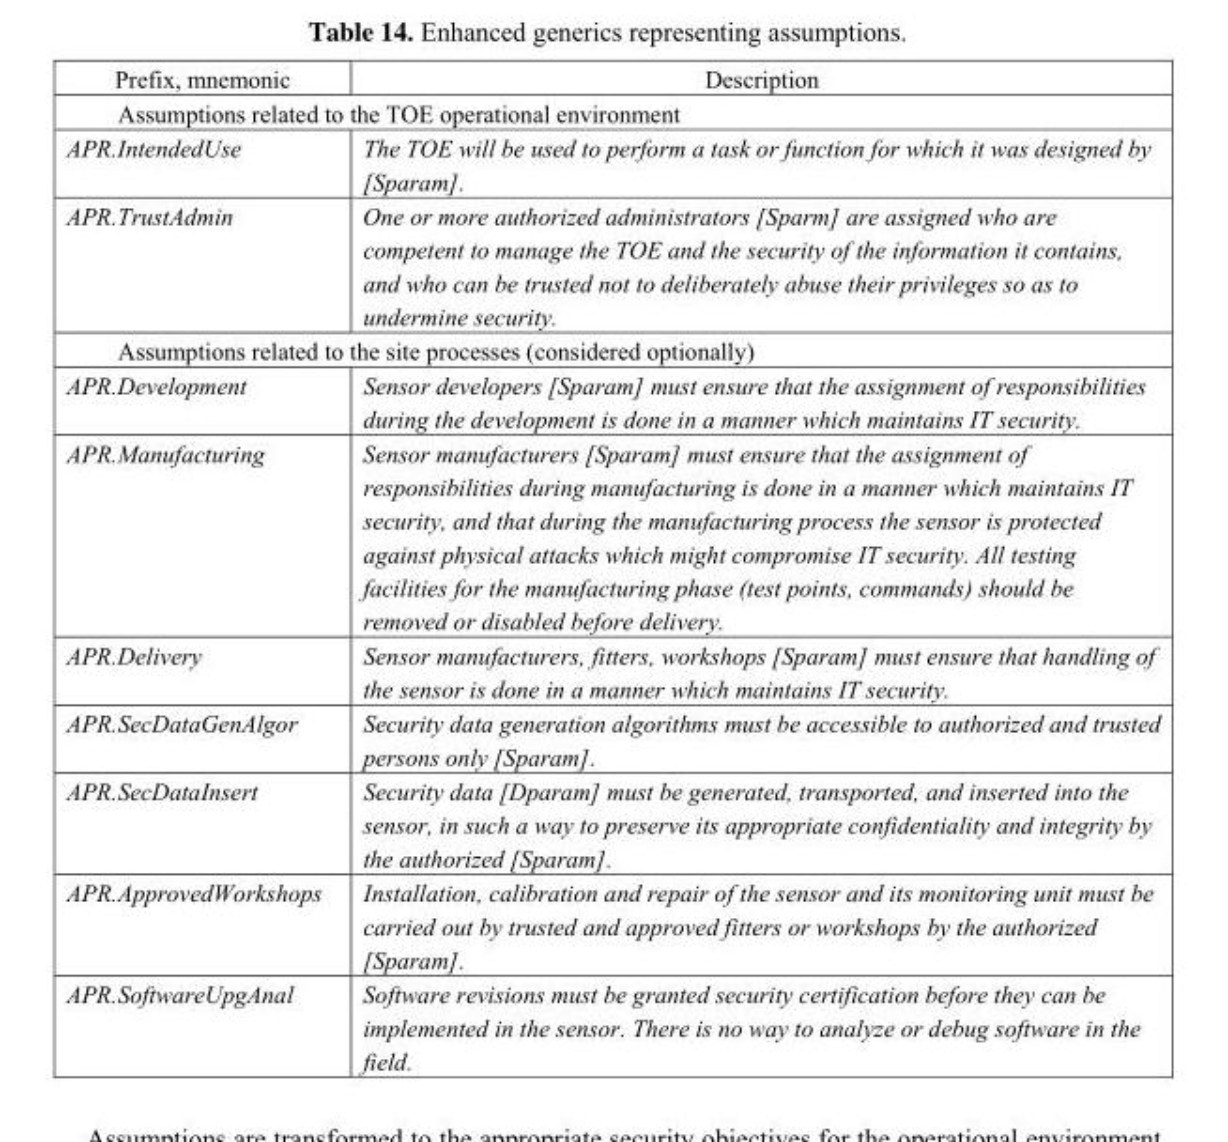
<table><thead><tr><td>Prefix, mnemonic</td><td>Description</td></tr></thead><tbody><tr><td colspan="2">Assumptions related to the TOE operational environment</td></tr><tr><td>APR.IntendedUse</td><td>The TOE will be used to perform a task or function for which it was designed by [Sparam].</td></tr><tr><td>APR.TrustAdmin</td><td>One or more authorized administrators [Sparm] are assigned who are competent to manage the TOE and the security of the information it contains, and who can be trusted not to deliberately abuse their privileges so as to undermine security.</td></tr><tr><td colspan="2">Assumptions related to the site processes (considered optionally)</td></tr><tr><td>APR.Development</td><td>Sensor developers [Sparam] must ensure that the assignment of responsibilities during the development is done in a manner which maintains IT security.</td></tr><tr><td>APR.Manufacturing</td><td>Sensor manufacturers [Sparam] must ensure that the assignment of responsibilities during manufacturing is done in a manner which maintains IT security, and that during the manufacturing process the sensor is protected against physical attacks which might compromise IT security. All testing facilities for the manufacturing phase (test points, commands) should be removed or disabled before delivery.</td></tr><tr><td>APR.Delivery</td><td>Sensor manufacturers, fitters, workshops [Sparam] must ensure that handling of the sensor is done in a manner which maintains IT security.</td></tr><tr><td>APR.SecDataGenAlgor</td><td>Security data generation algorithms must be accessible to authorized and trusted persons only [Sparam].</td></tr><tr><td>APR.SecDataInsert</td><td>Security data [Dparam] must be generated, transported, and inserted into the sensor, in such a way to preserve its appropriate confidentiality and integrity by the authorized [Sparam].</td></tr><tr><td>APR.ApprovedWorkshops</td><td>Installation, calibration and repair of the sensor and its monitoring unit must be carried out by trusted and approved fitters or workshops by the authorized [Sparam].</td></tr><tr><td>APR.SoftwareUpgAnal</td><td>Software revisions must be granted security certification before they can be implemented in the sensor. There is no way to analyze or debug software in the field.</td></tr></tbody></table>